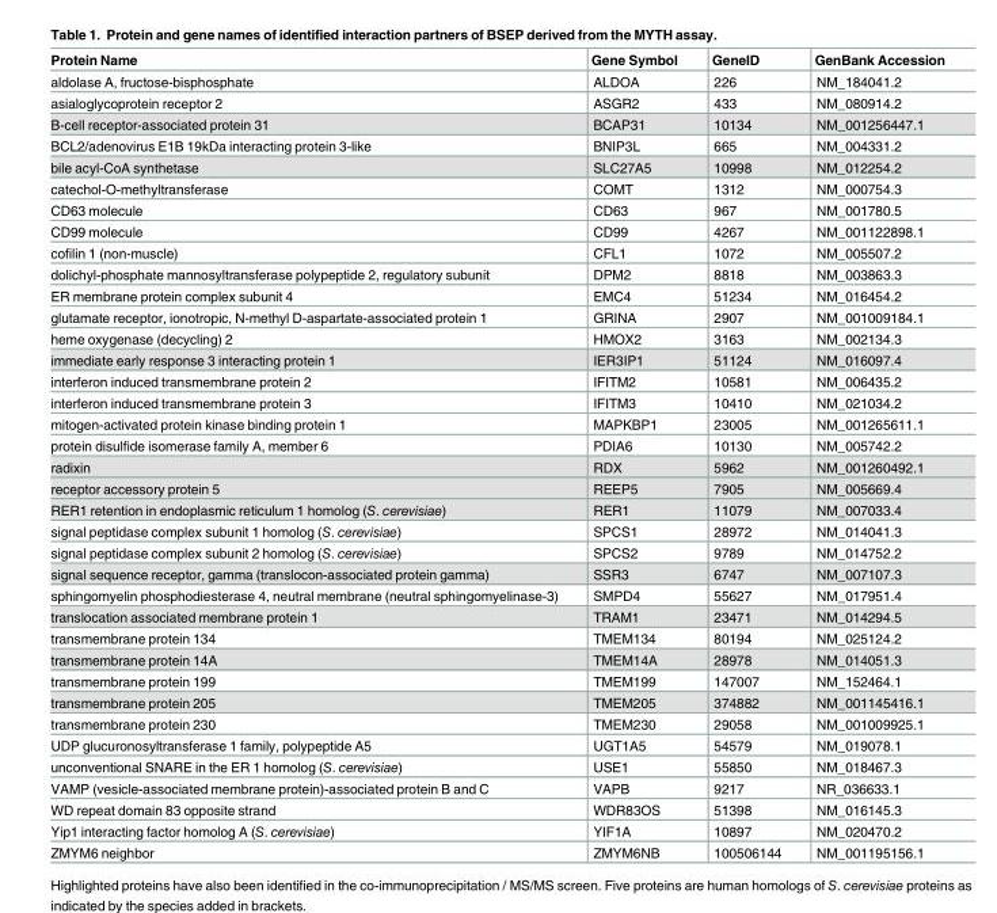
<table><thead><tr><td>Protein Name</td><td>Gene Symbol</td><td>GeneID</td><td>GenBank Accession</td></tr></thead><tbody><tr><td>aldolase A, fructose-bisphosphate</td><td>ALDOA</td><td>226</td><td>NM_184041.2</td></tr><tr><td>asialoglycoprotein receptor 2</td><td>ASGR2</td><td>433</td><td>NM_080914.2</td></tr><tr><td>B-cell receptor-associated protein 31</td><td>BCAP31</td><td>10134</td><td>NM_001256447.1</td></tr><tr><td>BCL2/adenovirus E1B 19kDa interacting protein 3-like</td><td>BNIP3L</td><td>665</td><td>NM_004331.2</td></tr><tr><td>bile acyl-CoA synthetase</td><td>SLC27A5</td><td>10998</td><td>NM_012254.2</td></tr><tr><td>catechol-O-methyltransferase</td><td>COMT</td><td>1312</td><td>NM_000754.3</td></tr><tr><td>CD63 molecule</td><td>CD63</td><td>967</td><td>NM_001780.5</td></tr><tr><td>CD99 molecule</td><td>CD99</td><td>4267</td><td>NM_001122898.1</td></tr><tr><td>cofilin 1 (non-muscle)</td><td>CFL1</td><td>1072</td><td>NM_005507.2</td></tr><tr><td>dolichyl-phosphate mannosyltransferase polypeptide 2, regulatory subunit</td><td>DPM2</td><td>8818</td><td>NM_003863.3</td></tr><tr><td>ER membrane protein complex subunit 4</td><td>EMC4</td><td>51234</td><td>NM_016454.2</td></tr><tr><td>glutamate receptor, ionotropic, N-methyl D-aspartate-associated protein 1</td><td>GRINA</td><td>2907</td><td>NM_001009184.1</td></tr><tr><td>heme oxygenase (decycling) 2</td><td>HMOX2</td><td>3163</td><td>NM_002134.3</td></tr><tr><td>immediate early response 3 interacting protein 1</td><td>IER3IP1</td><td>51124</td><td>NM_016097.4</td></tr><tr><td>interferon induced transmembrane protein 2</td><td>IFITM2</td><td>10581</td><td>NM_006435.2</td></tr><tr><td>interferon induced transmembrane protein 3</td><td>IFITM3</td><td>10410</td><td>NM_021034.2</td></tr><tr><td>mitogen-activated protein kinase binding protein 1</td><td>MAPKBP1</td><td>23005</td><td>NM_001265611.1</td></tr><tr><td>protein disulfide isomerase family A, member 6</td><td>PDIA6</td><td>10130</td><td>NM_005742.2</td></tr><tr><td>radixin</td><td>RDX</td><td>5962</td><td>NM_001260492.1</td></tr><tr><td>receptor accessory protein 5</td><td>REEP5</td><td>7905</td><td>NM_005669.4</td></tr><tr><td>RER1 retention in endoplasmic reticulum 1 homolog (S. cerevisiae)</td><td>RER1</td><td>11079</td><td>NM_007033.4</td></tr><tr><td>signal peptidase complex subunit 1 homolog (S. cerevisiae)</td><td>SPCS1</td><td>28972</td><td>NM_014041.3</td></tr><tr><td>signal peptidase complex subunit 2 homolog (S. cerevisiae)</td><td>SPCS2</td><td>9789</td><td>NM_014752.2</td></tr><tr><td>signal sequence receptor, gamma (translocon-associated protein gamma)</td><td>SSR3</td><td>6747</td><td>NM_007107.3</td></tr><tr><td>sphingomyelin phosphodiesterase 4, neutral membrane (neutral sphingomyelinase-3)</td><td>SMPD4</td><td>55627</td><td>NM_017951.4</td></tr><tr><td>translocation associated membrane protein 1</td><td>TRAM1</td><td>23471</td><td>NM_014294.5</td></tr><tr><td>transmembrane protein 134</td><td>TMEM134</td><td>80194</td><td>NM_025124.2</td></tr><tr><td>transmembrane protein 14A</td><td>TMEM14A</td><td>28978</td><td>NM_014051.3</td></tr><tr><td>transmembrane protein 199</td><td>TMEM199</td><td>147007</td><td>NM_152464.1</td></tr><tr><td>transmembrane protein 205</td><td>TMEM205</td><td>374882</td><td>NM_001145416.1</td></tr><tr><td>transmembrane protein 230</td><td>TMEM230</td><td>29058</td><td>NM_001009925.1</td></tr><tr><td>UDP glucuronosyltransferase 1 family, polypeptide A5</td><td>UGT1A5</td><td>54579</td><td>NM_019078.1</td></tr><tr><td>unconventional SNARE in the ER 1 homolog (S. cerevisiae)</td><td>USE1</td><td>55850</td><td>NM_018467.3</td></tr><tr><td>VAMP (vesicle-associated membrane protein)-associated protein B and C</td><td>VAPB</td><td>9217</td><td>NR_036633.1</td></tr><tr><td>WD repeat domain 83 opposite strand</td><td>WDR83OS</td><td>51398</td><td>NM_016145.3</td></tr><tr><td>Yip1 interacting factor homolog A (S. cerevisiae)</td><td>YIF1A</td><td>10897</td><td>NM_020470.2</td></tr><tr><td>ZMYM6 neighbor</td><td>ZMYM6NB</td><td>100506144</td><td>NM_001195156.1</td></tr></tbody></table>